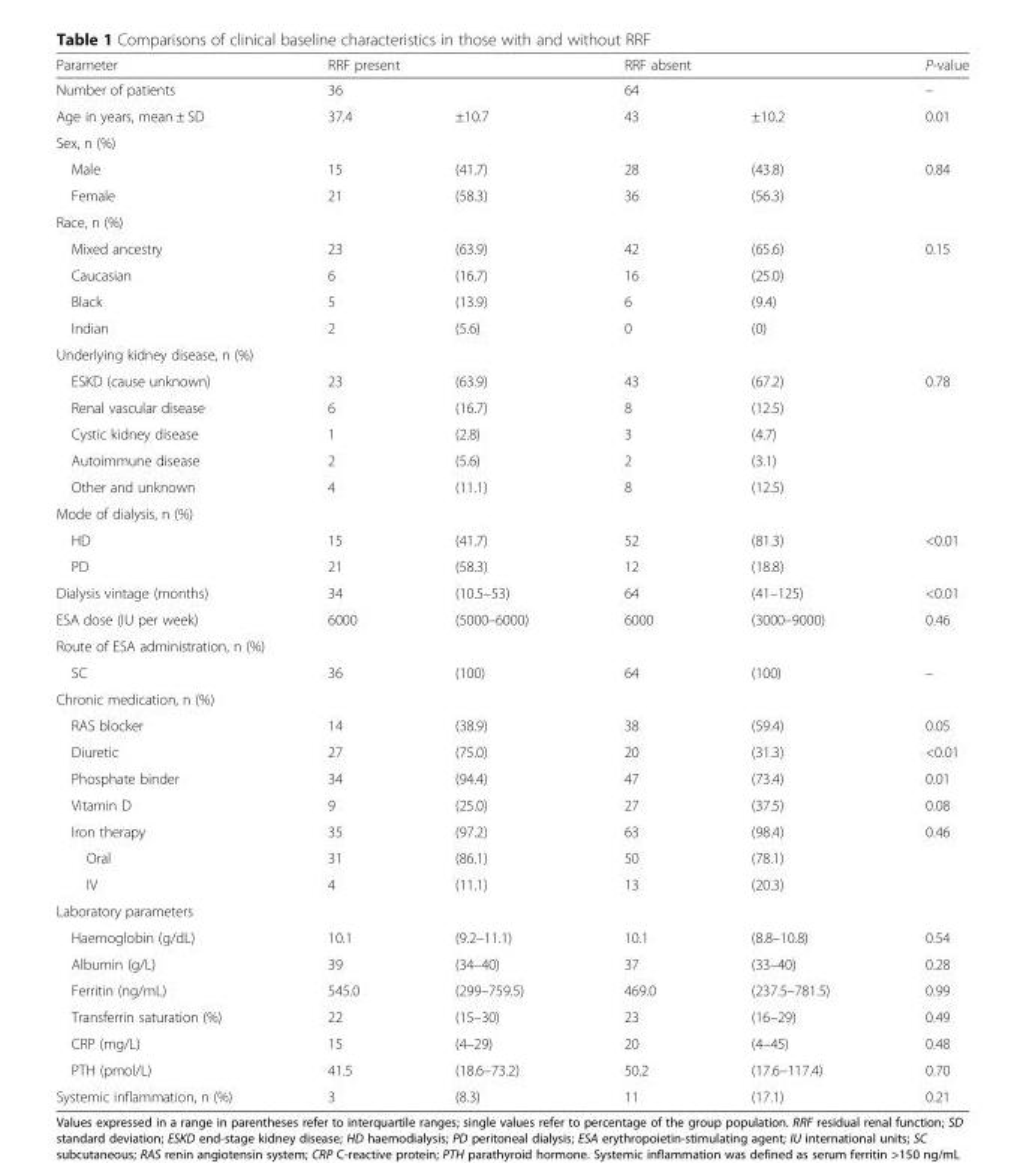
<table><thead><tr><td rowspan="3">Parameter Number of patients Age in years, mean ± SD</td><td rowspan="2" colspan="2">RRF present 36</td><td rowspan="2" colspan="2">RRF absent 64</td><td rowspan="3">P-value – 0.01</td></tr><tr></tr><tr><td>37.4</td><td>±10.7</td><td>43</td><td>±10.2</td></tr></thead><tbody><tr><td colspan="6">Sex, n (%)</td></tr><tr><td>Male</td><td>15</td><td>(41.7)</td><td>28</td><td>(43.8)</td><td rowspan="2">0.84</td></tr><tr><td>Female</td><td>21</td><td>(58.3)</td><td>36</td><td>(56.3)</td></tr><tr><td colspan="6">Race, n (%)</td></tr><tr><td>Mixed ancestry</td><td>23</td><td>(63.9)</td><td>42</td><td>(65.6)</td><td rowspan="4">0.15</td></tr><tr><td>Caucasian</td><td>6</td><td>(16.7)</td><td>16</td><td>(25.0)</td></tr><tr><td>Black</td><td>5</td><td>(13.9)</td><td>6</td><td>(9.4)</td></tr><tr><td>Indian</td><td>2</td><td>(5.6)</td><td>0</td><td>(0)</td></tr><tr><td colspan="6">Underlying kidney disease, n (%)</td></tr><tr><td>ESKD (cause unknown)</td><td>23</td><td>(63.9)</td><td>43</td><td>(67.2)</td><td rowspan="5">0.78</td></tr><tr><td>Renal vascular disease</td><td>6</td><td>(16.7)</td><td>8</td><td>(12.5)</td></tr><tr><td>Cystic kidney disease</td><td>1</td><td>(2.8)</td><td>3</td><td>(4.7)</td></tr><tr><td>Autoimmune disease</td><td>2</td><td>(5.6)</td><td>2</td><td>(3.1)</td></tr><tr><td>Other and unknown</td><td>4</td><td>(11.1)</td><td>8</td><td>(12.5)</td></tr><tr><td colspan="6">Mode of dialysis, n (%)</td></tr><tr><td>HD</td><td>15</td><td>(41.7)</td><td>52</td><td>(81.3)</td><td rowspan="2">&lt;0.01</td></tr><tr><td>PD</td><td>21</td><td>(58.3)</td><td>12</td><td>(18.8)</td></tr><tr><td>Dialysis vintage (months)</td><td>34</td><td>(10.5–53)</td><td>64</td><td>(41–125)</td><td>&lt;0.01</td></tr><tr><td>ESA dose (IU per week)</td><td>6000</td><td>(5000–6000)</td><td>6000</td><td>(3000–9000)</td><td>0.46</td></tr><tr><td colspan="6">Route of ESA administration, n (%)</td></tr><tr><td>SC</td><td>36</td><td>(100)</td><td>64</td><td>(100)</td><td>–</td></tr><tr><td colspan="6">Chronic medication, n (%)</td></tr><tr><td>RAS blocker</td><td>14</td><td>(38.9)</td><td>38</td><td>(59.4)</td><td>0.05</td></tr><tr><td>Diuretic</td><td>27</td><td>(75.0)</td><td>20</td><td>(31.3)</td><td>&lt;0.01</td></tr><tr><td>Phosphate binder</td><td>34</td><td>(94.4)</td><td>47</td><td>(73.4)</td><td>0.01</td></tr><tr><td>Vitamin D</td><td>9</td><td>(25.0)</td><td>27</td><td>(37.5)</td><td>0.08</td></tr><tr><td>Iron therapy</td><td>35</td><td>(97.2)</td><td>63</td><td>(98.4)</td><td rowspan="3">0.46</td></tr><tr><td>Oral</td><td>31</td><td>(86.1)</td><td>50</td><td>(78.1)</td></tr><tr><td>IV</td><td>4</td><td>(11.1)</td><td>13</td><td>(20.3)</td></tr><tr><td colspan="6">Laboratory parameters</td></tr><tr><td>Haemoglobin (g/dL)</td><td>10.1</td><td>(9.2–11.1)</td><td>10.1</td><td>(8.8–10.8)</td><td>0.54</td></tr><tr><td>Albumin (g/L)</td><td>39</td><td>(34–40)</td><td>37</td><td>(33–40)</td><td>0.28</td></tr><tr><td>Ferritin (ng/mL)</td><td>545.0</td><td>(299–759.5)</td><td>469.0</td><td>(237.5–781.5)</td><td>0.99</td></tr><tr><td>Transferrin saturation (%)</td><td>22</td><td>(15–30)</td><td>23</td><td>(16–29)</td><td>0.49</td></tr><tr><td>CRP (mg/L)</td><td>15</td><td>(4–29)</td><td>20</td><td>(4–45)</td><td>0.48</td></tr><tr><td>PTH (pmol/L)</td><td>41.5</td><td>(18.6–73.2)</td><td>50.2</td><td>(17.6–117.4)</td><td>0.70</td></tr><tr><td>Systemic inflammation, n (%)</td><td>3</td><td>(8.3)</td><td>11</td><td>(17.1)</td><td>0.21</td></tr></tbody></table>